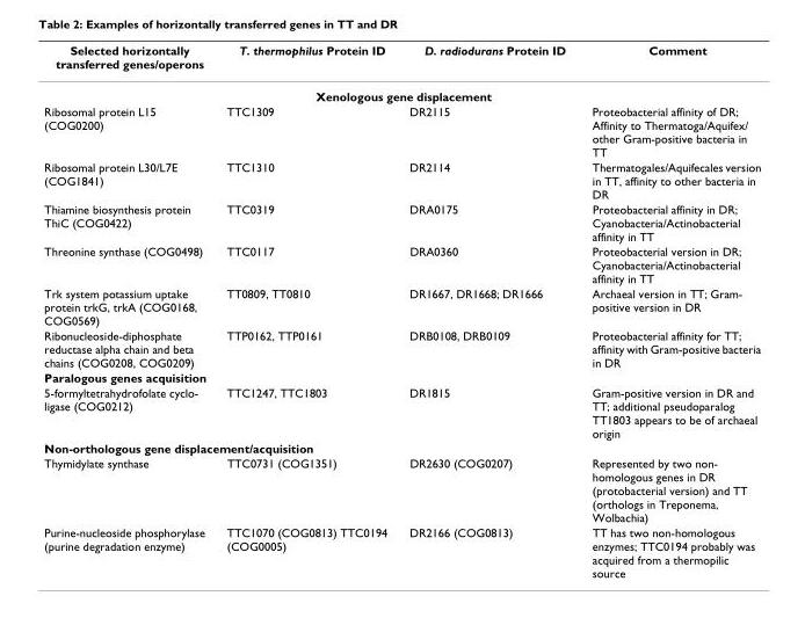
<table><thead><tr><td>Selected horizontally transferred genes/operons</td><td>T. thermophilus Protein ID</td><td>D. radiodurans Protein ID</td><td>Comment</td></tr></thead><tbody><tr><td colspan="4">Xenologous gene displacement</td></tr><tr><td>Ribosomal protein L15 (COG0200)</td><td>TTC1309</td><td>DR2115</td><td>Proteobacterial affinity of DR; Affinity to Thermatoga/Aquifex/ other Gram-positive bacteria in TT</td></tr><tr><td>Ribosomal protein L30/L7E (COG1841)</td><td>TTC1310</td><td>DR2114</td><td>Thermatogales/Aquifecales version in TT, affinity to other bacteria in DR</td></tr><tr><td>Thiamine biosynthesis protein ThiC (COG0422)</td><td>TTC0319</td><td>DRA0175</td><td>Proteobacterial affinity in DR; Cyanobacteria/Actinobacterial affinity in TT</td></tr><tr><td>Threonine synthase (COG0498)</td><td>TTC0117</td><td>DRA0360</td><td>Proteobacterial version in DR; Cyanobacteria/Actinobacterial affinity in TT</td></tr><tr><td>Trk system potassium uptake protein trkG, trkA (COG0168, COG0569)</td><td>TT0809, TT0810</td><td>DR1667, DR1668; DR1666</td><td>Archaeal version in TT; Gram- positive version in DR</td></tr><tr><td>Ribonucleoside-diphosphate reductase alpha chain and beta chains (COG0208, COG0209)</td><td>TTP0162, TTP0161</td><td>DRB0108, DRB0109</td><td>Proteobacterial affinity for TT; affinity with Gram-positive bacteria in DR</td></tr><tr><td colspan="4">Paralogous genes acquisition</td></tr><tr><td>5-formyltetrahydrofolate cyclo- ligase (COG0212)</td><td>TTC1247, TTC1803</td><td>DR1815</td><td>Gram-positive version in DR and TT; additional pseudoparalog TT1803 appears to be of archaeal origin</td></tr><tr><td colspan="4">Non-orthologous gene displacement/acquisition</td></tr><tr><td>Thymidylate synthase</td><td>TTC0731 (COG1351)</td><td>DR2630 (COG0207)</td><td>Represented by two non- homologous genes in DR (protobacterial version) and TT (orthologs in Treponema, Wolbachia)</td></tr><tr><td>Purine-nucleoside phosphorylase (purine degradation enzyme)</td><td>TTC1070 (COG0813) TTC0194 (COG0005)</td><td>DR2166 (COG0813)</td><td>TT has two non-homologous enzymes; TTC0194 probably was acquired from a thermopilic source</td></tr></tbody></table>